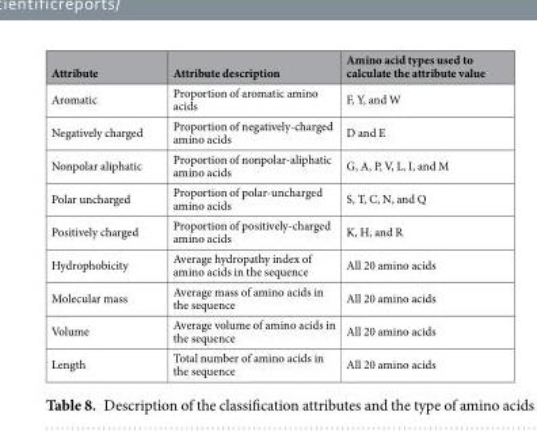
<table><thead><tr><td>Attribute</td><td>Attribute description</td><td>Amino acid types used to calculate the attribute value</td></tr></thead><tbody><tr><td>Aromatic</td><td>Proportion of aromatic amino acids</td><td>F, Y, and W</td></tr><tr><td>Negatively charged</td><td>Proportion of negatively-charged amino acids</td><td>D and E</td></tr><tr><td>Nonpolar aliphatic</td><td>Proportion of nonpolar-aliphatic amino acids</td><td>G, A, P, V, L, I, and M</td></tr><tr><td>Polar uncharged</td><td>Proportion of polar-uncharged amino acids</td><td>S, T, C, N, and Q</td></tr><tr><td>Positively charged</td><td>Proportion of positively-charged amino acids</td><td>K, H, and R</td></tr><tr><td>Hydrophobicity</td><td>Average hydropathy index of amino acids in the sequence</td><td>All 20 amino acids</td></tr><tr><td>Molecular mass</td><td>Average mass of amino acids in the sequence</td><td>All 20 amino acids</td></tr><tr><td>Volume</td><td>Average volume of amino acids in the sequence</td><td>All 20 amino acids</td></tr><tr><td>Length</td><td>Total number of amino acids in the sequence</td><td>All 20 amino acids</td></tr></tbody></table>